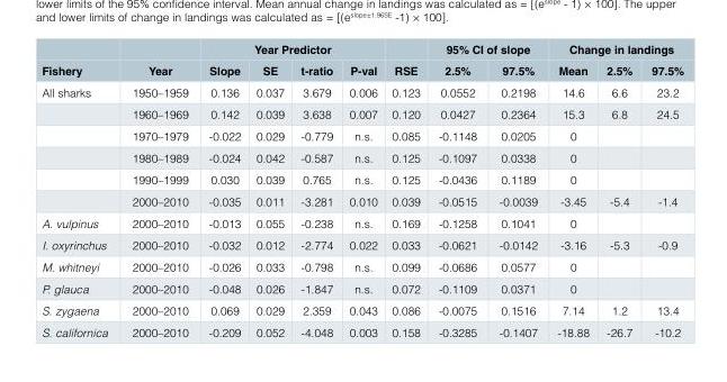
<table><thead><tr><td rowspan="2">Fishery</td><td rowspan="2">Year</td><td colspan="4">Year Predictor</td><td rowspan="2">RSE</td><td colspan="2">95% CI of slope</td><td colspan="3">Change in landings</td></tr><tr><td>Slope</td><td>SE</td><td>t-ratio</td><td>P-val</td><td>2.5%</td><td>97.5%</td><td>Mean</td><td>2.5%</td><td>97.5%</td></tr></thead><tbody><tr><td rowspan="6">All sharks</td><td>1950–1959</td><td>0.136</td><td>0.037</td><td>3.679</td><td>0.006</td><td>0.123</td><td>0.0552</td><td>0.2198</td><td>14.6</td><td>6.6</td><td>23.2</td></tr><tr><td>1960–1969</td><td>0.142</td><td>0.039</td><td>3.638</td><td>0.007</td><td>0.120</td><td>0.0427</td><td>0.2364</td><td>15.3</td><td>6.8</td><td>24.5</td></tr><tr><td>1970–1979</td><td>-0.022</td><td>0.029</td><td>-0.779</td><td>n.s.</td><td>0.085</td><td>-0.1148</td><td>0.0205</td><td>0</td><td></td><td></td></tr><tr><td>1980–1989</td><td>-0.024</td><td>0.042</td><td>-0.587</td><td>n.s.</td><td>0.125</td><td>-0.1097</td><td>0.0338</td><td>0</td><td></td><td></td></tr><tr><td>1990–1999</td><td>0.030</td><td>0.039</td><td>0.765</td><td>n.s.</td><td>0.125</td><td>-0.0436</td><td>0.1189</td><td>0</td><td></td><td></td></tr><tr><td>2000–2010</td><td>-0.035</td><td>0.011</td><td>-3.281</td><td>0.010</td><td>0.039</td><td>-0.0515</td><td>-0.0039</td><td>-3.45</td><td>-5.4</td><td>-1.4</td></tr><tr><td>A. vulpinus</td><td>2000–2010</td><td>-0.013</td><td>0.055</td><td>-0.238</td><td>n.s.</td><td>0.169</td><td>-0.1258</td><td>0.1041</td><td>0</td><td></td><td></td></tr><tr><td>I. oxyrinchus</td><td>2000–2010</td><td>-0.032</td><td>0.012</td><td>-2.774</td><td>0.022</td><td>0.033</td><td>-0.0621</td><td>-0.0142</td><td>-3.16</td><td>-5.3</td><td>-0.9</td></tr><tr><td>M. whitneyi</td><td>2000–2010</td><td>-0.026</td><td>0.033</td><td>-0.798</td><td>n.s.</td><td>0.099</td><td>-0.0686</td><td>0.0577</td><td>0</td><td></td><td></td></tr><tr><td>P. glauca</td><td>2000–2010</td><td>-0.048</td><td>0.026</td><td>-1.847</td><td>n.s.</td><td>0.072</td><td>-0.1109</td><td>0.0371</td><td>0</td><td></td><td></td></tr><tr><td>S. zygaena</td><td>2000–2010</td><td>0.069</td><td>0.029</td><td>2.359</td><td>0.043</td><td>0.086</td><td>-0.0075</td><td>0.1516</td><td>7.14</td><td>1.2</td><td>13.4</td></tr><tr><td>S. californica</td><td>2000–2010</td><td>-0.209</td><td>0.052</td><td>-4.048</td><td>0.003</td><td>0.158</td><td>-0.3285</td><td>-0.1407</td><td>-18.88</td><td>-26.7</td><td>-10.2</td></tr></tbody></table>